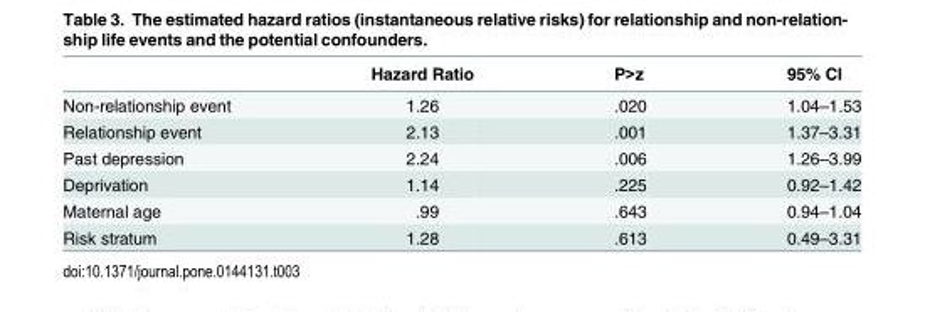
<table><thead><tr><td></td><td>Hazard Ratio</td><td>P&gt;z</td><td>95% CI</td></tr></thead><tbody><tr><td>Non-relationship event</td><td>1.26</td><td>.020</td><td>1.04–1.53</td></tr><tr><td>Relationship event</td><td>2.13</td><td>.001</td><td>1.37–3.31</td></tr><tr><td>Past depression</td><td>2.24</td><td>.006</td><td>1.26–3.99</td></tr><tr><td>Deprivation</td><td>1.14</td><td>.225</td><td>0.92–1.42</td></tr><tr><td>Maternal age</td><td>.99</td><td>.643</td><td>0.94–1.04</td></tr><tr><td>Risk stratum</td><td>1.28</td><td>.613</td><td>0.49–3.31</td></tr></tbody></table>